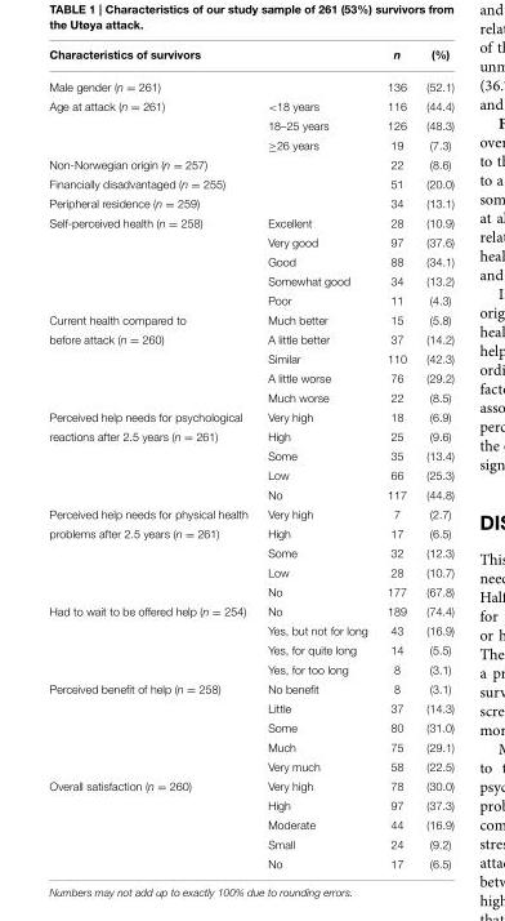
<table><thead><tr><td rowspan="2" colspan="2">Characteristics of survivors Male gender (n = 261)</td><td rowspan="3">n 136 116</td><td rowspan="3">(%) (52.1) (44.4)</td></tr><tr></tr><tr><td>Age at attack (n = 261)</td><td>&lt;18 years</td></tr></thead><tbody><tr><td></td><td>18–25 years</td><td>126</td><td>(48.3)</td></tr><tr><td></td><td>≥26 years</td><td>19</td><td>(7.3)</td></tr><tr><td>Non-Norwegian origin (n = 257)</td><td></td><td>22</td><td>(8.6)</td></tr><tr><td>Financially disadvantaged (n = 255)</td><td></td><td>51</td><td>(20.0)</td></tr><tr><td>Peripheral residence (n = 259)</td><td></td><td>34</td><td>(13.1)</td></tr><tr><td rowspan="5">Self-perceived health (n = 258)</td><td>Excellent</td><td>28</td><td>(10.9)</td></tr><tr><td>Very good</td><td>97</td><td>(37.6)</td></tr><tr><td>Good</td><td>88</td><td>(34.1)</td></tr><tr><td>Somewhat good</td><td>34</td><td>(13.2)</td></tr><tr><td>Poor</td><td>11</td><td>(4.3)</td></tr><tr><td>Current health compared to</td><td>Much better</td><td>15</td><td>(5.8)</td></tr><tr><td rowspan="4">before attack (n = 260)</td><td>A little better</td><td>37</td><td>(14.2)</td></tr><tr><td>Similar</td><td>110</td><td>(42.3)</td></tr><tr><td>A little worse</td><td>76</td><td>(29.2)</td></tr><tr><td>Much worse</td><td>22</td><td>(8.5)</td></tr><tr><td>Perceived help needs for psychological</td><td>Very high</td><td>18</td><td>(6.9)</td></tr><tr><td rowspan="4">reactions after 2.5 years (n = 261)</td><td>High</td><td>25</td><td>(9.6)</td></tr><tr><td>Some</td><td>35</td><td>(13.4)</td></tr><tr><td>Low</td><td>66</td><td>(25.3)</td></tr><tr><td>No</td><td>117</td><td>(44.8)</td></tr><tr><td>Perceived help needs for physical health</td><td>Very high</td><td>7</td><td>(2.7)</td></tr><tr><td rowspan="4">problems after 2.5 years (n = 261)</td><td>High</td><td>17</td><td>(6.5)</td></tr><tr><td>Some</td><td>32</td><td>(12.3)</td></tr><tr><td>Low</td><td>28</td><td>(10.7)</td></tr><tr><td>No</td><td>177</td><td>(67.8)</td></tr><tr><td rowspan="4">Had to wait to be offered help (n = 254)</td><td>No</td><td>189</td><td>(74.4)</td></tr><tr><td>Yes, but not for long</td><td>43</td><td>(16.9)</td></tr><tr><td>Yes, for quite long</td><td>14</td><td>(5.5)</td></tr><tr><td>Yes, for too long</td><td>8</td><td>(3.1)</td></tr><tr><td rowspan="5">Perceived benefit of help (n = 258)</td><td>No benefit</td><td>8</td><td>(3.1)</td></tr><tr><td>Little</td><td>37</td><td>(14.3)</td></tr><tr><td>Some</td><td>80</td><td>(31.0)</td></tr><tr><td>Much</td><td>75</td><td>(29.1)</td></tr><tr><td>Very much</td><td>58</td><td>(22.5)</td></tr><tr><td rowspan="5">Overall satisfaction (n = 260)</td><td>Very high</td><td>78</td><td>(30.0)</td></tr><tr><td>High</td><td>97</td><td>(37.3)</td></tr><tr><td>Moderate</td><td>44</td><td>(16.9)</td></tr><tr><td>Small</td><td>24</td><td>(9.2)</td></tr><tr><td>No</td><td>17</td><td>(6.5)</td></tr></tbody></table>